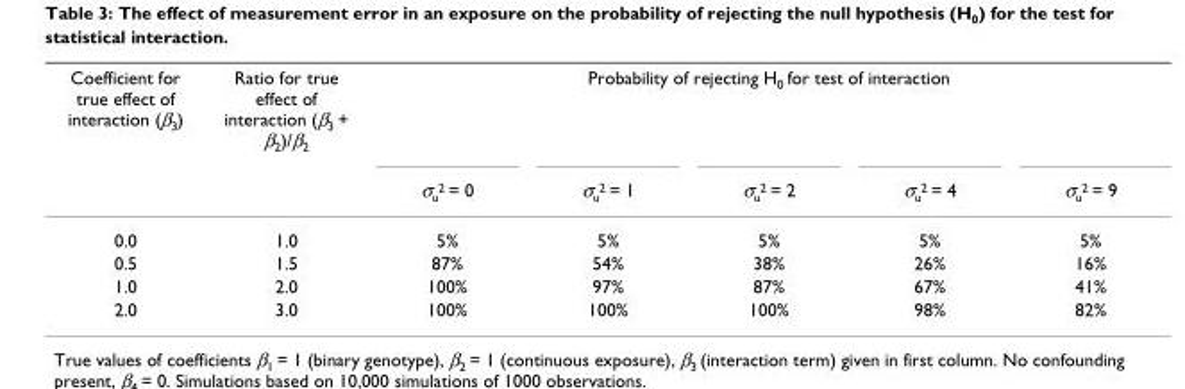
<table><thead><tr><td rowspan="2">Coefficient for true effect of interaction (β<sub>3</sub>)</td><td rowspan="2">Ratio for true effect of interaction (β<sub>3</sub> + β<sub>2</sub>)/β<sub>2</sub></td><td colspan="5">Probability of rejecting H<sub>0</sub> for test of interaction</td></tr><tr><td>σ<sub>u</sub><sup>2</sup> = 0</td><td>σ<sub>u</sub><sup>2</sup> = 1</td><td>σ<sub>u</sub><sup>2</sup> = 2</td><td>σ<sub>u</sub><sup>2</sup> = 4</td><td>σ<sub>u</sub><sup>2</sup> = 9</td></tr></thead><tbody><tr><td>0.0</td><td>1.0</td><td>5%</td><td>5%</td><td>5%</td><td>5%</td><td>5%</td></tr><tr><td>0.5</td><td>1.5</td><td>87%</td><td>54%</td><td>38%</td><td>26%</td><td>16%</td></tr><tr><td>1.0</td><td>2.0</td><td>100%</td><td>97%</td><td>87%</td><td>67%</td><td>41%</td></tr><tr><td>2.0</td><td>3.0</td><td>100%</td><td>100%</td><td>100%</td><td>98%</td><td>82%</td></tr></tbody></table>